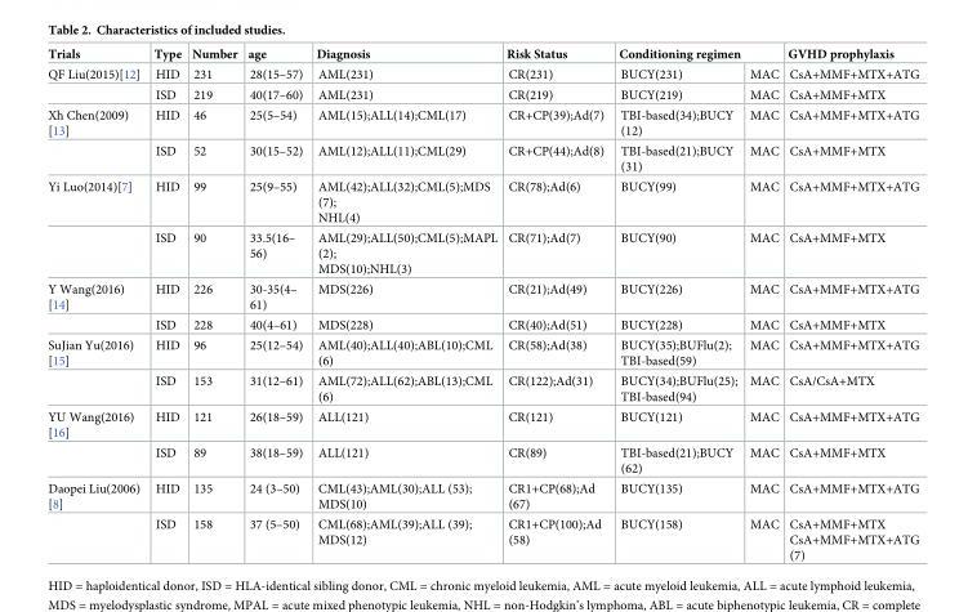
<table><thead><tr><td rowspan="2">Trials QF Liu(2015)[12]</td><td rowspan="2">Type HID</td><td rowspan="2">Number 231</td><td rowspan="2">age 28(15–57)</td><td rowspan="2">Diagnosis AML(231)</td><td rowspan="2">Risk Status CR(231)</td><td colspan="2">Conditioning regimen</td><td rowspan="2">GVHD prophylaxis CsA+MMF+MTX+ATG</td></tr><tr><td>BUCY(231)</td><td>MAC</td></tr></thead><tbody><tr><td></td><td>ISD</td><td>219</td><td>40(17–60)</td><td>AML(231)</td><td>CR(219)</td><td>BUCY(219)</td><td>MAC</td><td>CsA+MMF+MTX</td></tr><tr><td rowspan="2">Xh Chen(2009) [13]</td><td>HID</td><td>46</td><td>25(5–54)</td><td>AML(15);ALL(14);CML(17)</td><td>CR+CP(39);Ad(7)</td><td>TBI-based(34);BUCY (12)</td><td>MAC</td><td>CsA+MMF+MTX+ATG</td></tr><tr><td>ISD</td><td>52</td><td>30(15–52)</td><td>AML(12);ALL(11);CML(29)</td><td>CR+CP(44);Ad(8)</td><td>TBI-based(21);BUCY (31)</td><td>MAC</td><td>CsA+MMF+MTX</td></tr><tr><td rowspan="2">Yi Luo(2014)[7]</td><td>HID</td><td>99</td><td>25(9–55)</td><td>AML(42);ALL(32);CML(5);MDS (7); NHL(4)</td><td>CR(78);Ad(6)</td><td>BUCY(99)</td><td>MAC</td><td>CsA+MMF+MTX+ATG</td></tr><tr><td>ISD</td><td>90</td><td>33.5(16– 56)</td><td>AML(29);ALL(50);CML(5);MAPL (2); MDS(10);NHL(3)</td><td>CR(71);Ad(7)</td><td>BUCY(90)</td><td>MAC</td><td>CsA+MMF+MTX</td></tr><tr><td rowspan="2">Y Wang(2016) [14]</td><td>HID</td><td>226</td><td>30-35(4– 61)</td><td>MDS(226)</td><td>CR(21);Ad(49)</td><td>BUCY(226)</td><td>MAC</td><td>CsA+MMF+MTX+ATG</td></tr><tr><td>ISD</td><td>228</td><td>40(4–61)</td><td>MDS(228)</td><td>CR(40);Ad(51)</td><td>BUCY(228)</td><td>MAC</td><td>CsA+MMF+MTX</td></tr><tr><td rowspan="2">SuJian Yu(2016) [15]</td><td>HID</td><td>96</td><td>25(12–54)</td><td>AML(40);ALL(40);ABL(10);CML (6)</td><td>CR(58);Ad(38)</td><td>BUCY(35);BUFlu(2); TBI-based(59)</td><td>MAC</td><td>CsA+MMF+MTX+ATG</td></tr><tr><td>ISD</td><td>153</td><td>31(12–61)</td><td>AML(72);ALL(62);ABL(13);CML (6)</td><td>CR(122);Ad(31)</td><td>BUCY(34);BUFlu(25); TBI-based(94)</td><td>MAC</td><td>CsA/CsA+MTX</td></tr><tr><td rowspan="2">YU Wang(2016) [16]</td><td>HID</td><td>121</td><td>26(18–59)</td><td>ALL(121)</td><td>CR(121)</td><td>BUCY(121)</td><td>MAC</td><td>CsA+MMF+MTX+ATG</td></tr><tr><td>ISD</td><td>89</td><td>38(18–59)</td><td>ALL(121)</td><td>CR(89)</td><td>TBI-based(21);BUCY (62)</td><td>MAC</td><td>CsA+MMF+MTX</td></tr><tr><td rowspan="2">Daopei Liu(2006) [8]</td><td>HID</td><td>135</td><td>24 (3–50)</td><td>CML(43);AML(30);ALL (53); MDS(10)</td><td>CR1+CP(68);Ad (67)</td><td>BUCY(135)</td><td>MAC</td><td>CsA+MMF+MTX+ATG</td></tr><tr><td>ISD</td><td>158</td><td>37 (5–50)</td><td>CML(68);AML(39);ALL (39); MDS(12)</td><td>CR1+CP(100);Ad (58)</td><td>BUCY(158)</td><td>MAC</td><td>CsA+MMF+MTX CsA+MMF+MTX+ATG (7)</td></tr></tbody></table>